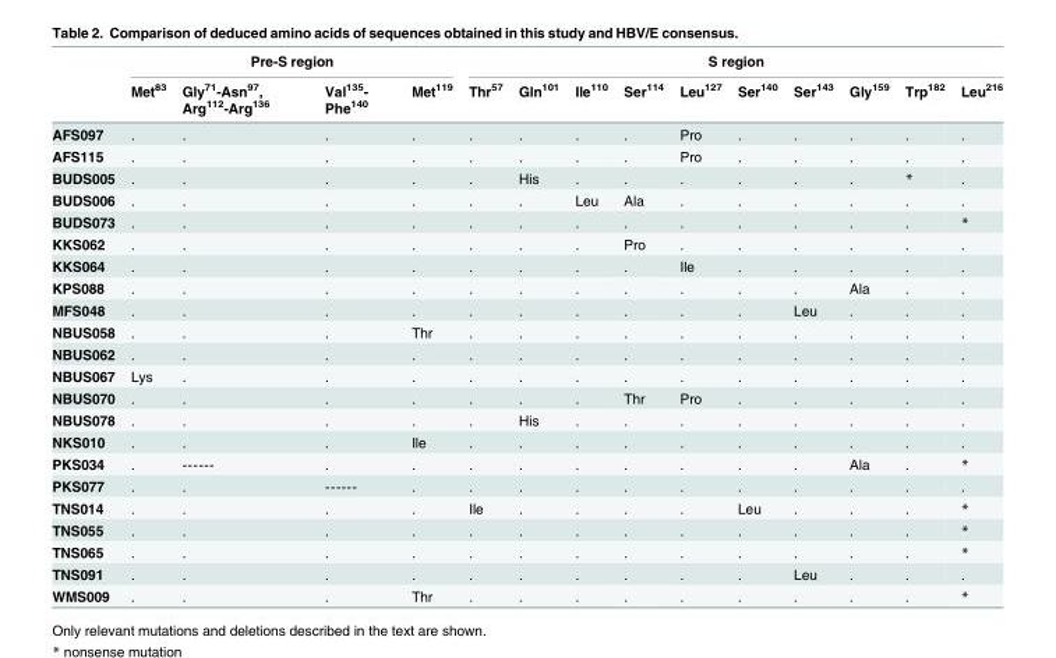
<table><thead><tr><td rowspan="2"></td><td colspan="4">Pre-S region</td><td colspan="10">S region</td></tr><tr><td>Met<sup>83</sup></td><td>Gly<sup>71</sup>-Asn<sup>97</sup>, Arg<sup>112</sup>-Arg<sup>136</sup></td><td>Val<sup>135</sup>- Phe<sup>140</sup></td><td>Met<sup>119</sup></td><td>Thr<sup>57</sup></td><td>Gln<sup>101</sup></td><td>Ile<sup>110</sup></td><td>Ser<sup>114</sup></td><td>Leu<sup>127</sup></td><td>Ser<sup>140</sup></td><td>Ser<sup>143</sup></td><td>Gly<sup>159</sup></td><td>Trp<sup>182</sup></td><td>Leu<sup>216</sup></td></tr></thead><tbody><tr><td>AFS097</td><td>.</td><td>.</td><td>.</td><td>.</td><td>.</td><td>.</td><td>.</td><td>.</td><td>Pro</td><td>.</td><td>.</td><td>.</td><td>.</td><td>.</td></tr><tr><td>AFS115</td><td>.</td><td>.</td><td>.</td><td>.</td><td>.</td><td>.</td><td>.</td><td>.</td><td>Pro</td><td>.</td><td>.</td><td>.</td><td>.</td><td>.</td></tr><tr><td>BUDS005</td><td>.</td><td>.</td><td>.</td><td>.</td><td>.</td><td>His</td><td>.</td><td>.</td><td>.</td><td>.</td><td>.</td><td>.</td><td>*</td><td>.</td></tr><tr><td>BUDS006</td><td>.</td><td>.</td><td>.</td><td>.</td><td>.</td><td>.</td><td>Leu</td><td>Ala</td><td>.</td><td>.</td><td>.</td><td>.</td><td>.</td><td>.</td></tr><tr><td>BUDS073</td><td>.</td><td>.</td><td>.</td><td>.</td><td>.</td><td>.</td><td>.</td><td>.</td><td>.</td><td>.</td><td>.</td><td>.</td><td>.</td><td>*</td></tr><tr><td>KKS062</td><td>.</td><td>.</td><td>.</td><td>.</td><td>.</td><td>.</td><td>.</td><td>Pro</td><td>.</td><td>.</td><td>.</td><td>.</td><td>.</td><td>.</td></tr><tr><td>KKS064</td><td>.</td><td>.</td><td>.</td><td>.</td><td>.</td><td>.</td><td>.</td><td>.</td><td>Ile</td><td>.</td><td>.</td><td>.</td><td>.</td><td>.</td></tr><tr><td>KPS088</td><td>.</td><td>.</td><td>.</td><td>.</td><td>.</td><td>.</td><td>.</td><td>.</td><td>.</td><td>.</td><td>.</td><td>Ala</td><td>.</td><td>.</td></tr><tr><td>MFS048</td><td>.</td><td>.</td><td>.</td><td>.</td><td>.</td><td>.</td><td>.</td><td>.</td><td>.</td><td>.</td><td>Leu</td><td>.</td><td>.</td><td>.</td></tr><tr><td>NBUS058</td><td>.</td><td>.</td><td>.</td><td>Thr</td><td>.</td><td>.</td><td>.</td><td>.</td><td>.</td><td>.</td><td>.</td><td>.</td><td>.</td><td>.</td></tr><tr><td>NBUS062</td><td>.</td><td>.</td><td>.</td><td>.</td><td>.</td><td>.</td><td>.</td><td>.</td><td>.</td><td>.</td><td>.</td><td>.</td><td>.</td><td>.</td></tr><tr><td>NBUS067</td><td>Lys</td><td>.</td><td>.</td><td>.</td><td>.</td><td>.</td><td>.</td><td>.</td><td>.</td><td>.</td><td>.</td><td>.</td><td>.</td><td>.</td></tr><tr><td>NBUS070</td><td>.</td><td>.</td><td>.</td><td>.</td><td>.</td><td>.</td><td>.</td><td>Thr</td><td>Pro</td><td>.</td><td>.</td><td>.</td><td>.</td><td>.</td></tr><tr><td>NBUS078</td><td>.</td><td>.</td><td>.</td><td>.</td><td>.</td><td>His</td><td>.</td><td>.</td><td>.</td><td>.</td><td>.</td><td>.</td><td>.</td><td>.</td></tr><tr><td>NKS010</td><td>.</td><td>.</td><td>.</td><td>Ile</td><td>.</td><td>.</td><td>.</td><td>.</td><td>.</td><td>.</td><td>.</td><td>.</td><td>.</td><td>.</td></tr><tr><td>PKS034</td><td>.</td><td>------</td><td>.</td><td>.</td><td>.</td><td>.</td><td>.</td><td>.</td><td>.</td><td>.</td><td>.</td><td>Ala</td><td>.</td><td>*</td></tr><tr><td>PKS077</td><td>.</td><td>.</td><td>------</td><td>.</td><td>.</td><td>.</td><td>.</td><td>.</td><td>.</td><td>.</td><td>.</td><td>.</td><td>.</td><td>.</td></tr><tr><td>TNS014</td><td>.</td><td>.</td><td>.</td><td>.</td><td>Ile</td><td>.</td><td>.</td><td>.</td><td>.</td><td>Leu</td><td>.</td><td>.</td><td>.</td><td>*</td></tr><tr><td>TNS055</td><td>.</td><td>.</td><td>.</td><td>.</td><td>.</td><td>.</td><td>.</td><td>.</td><td>.</td><td>.</td><td>.</td><td>.</td><td>.</td><td>*</td></tr><tr><td>TNS065</td><td>.</td><td>.</td><td>.</td><td>.</td><td>.</td><td>.</td><td>.</td><td>.</td><td>.</td><td>.</td><td>.</td><td>.</td><td>.</td><td>*</td></tr><tr><td>TNS091</td><td>.</td><td>.</td><td>.</td><td>.</td><td>.</td><td>.</td><td>.</td><td>.</td><td>.</td><td>.</td><td>Leu</td><td>.</td><td>.</td><td>.</td></tr><tr><td>WMS009</td><td>.</td><td>.</td><td>.</td><td>Thr</td><td>.</td><td>.</td><td>.</td><td>.</td><td>.</td><td>.</td><td>.</td><td>.</td><td>.</td><td>*</td></tr></tbody></table>